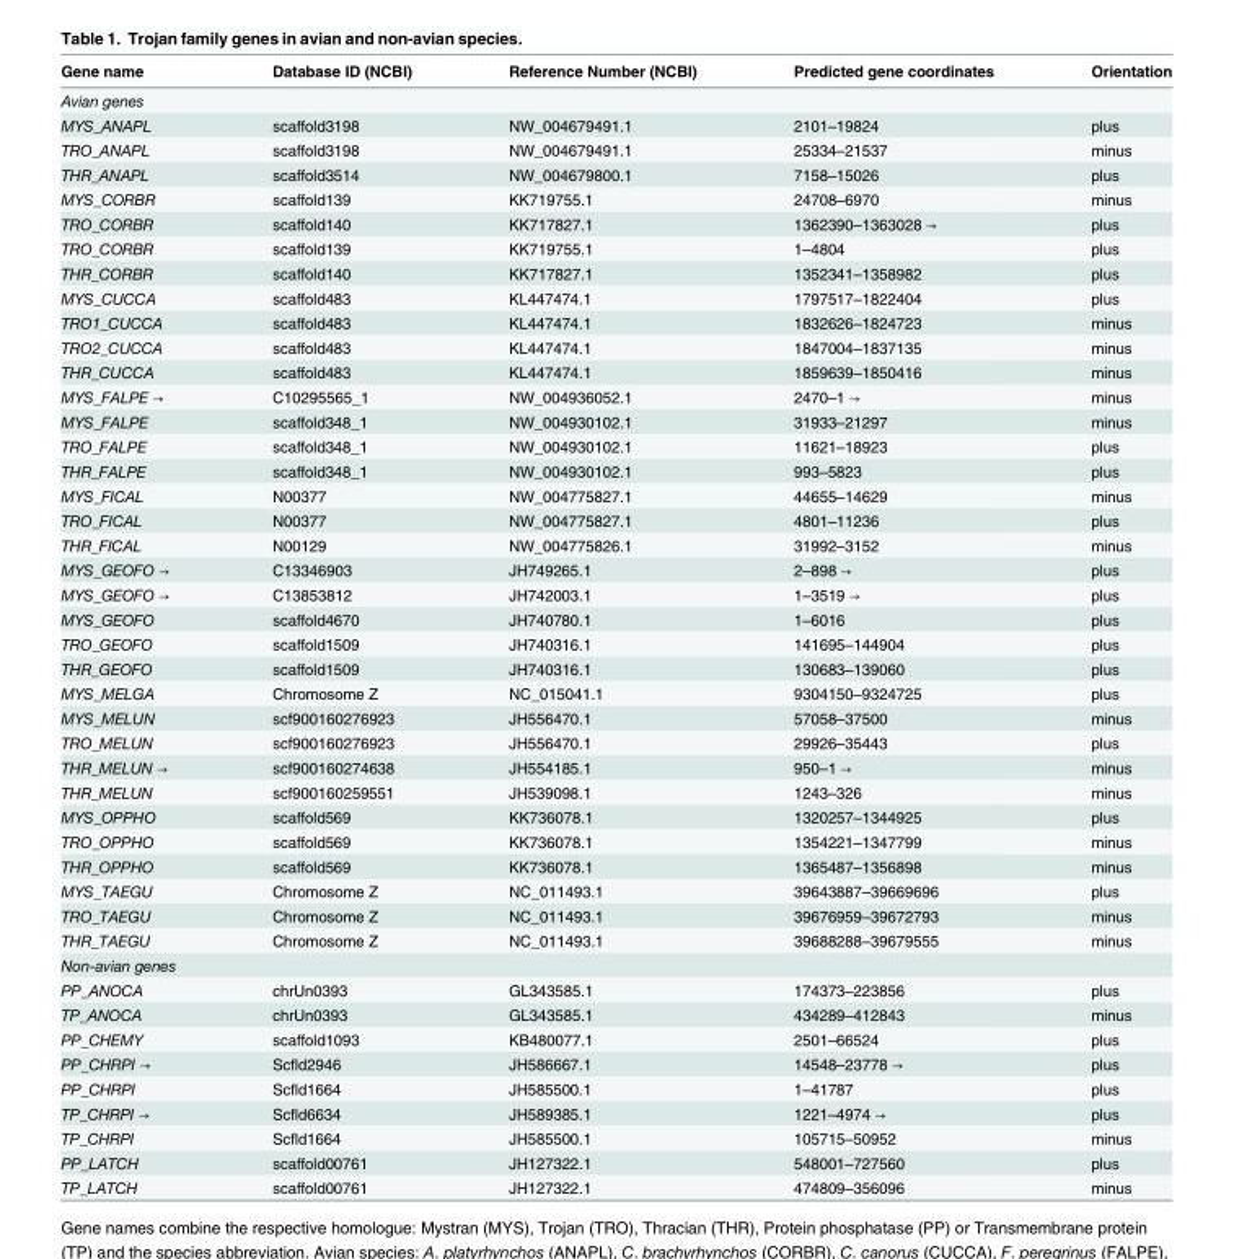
<table><thead><tr><td>Gene name</td><td>Database ID (NCBI)</td><td>Reference Number (NCBI)</td><td>Predicted gene coordinates</td><td>Orientation</td></tr></thead><tbody><tr><td colspan="5">Avian genes</td></tr><tr><td>MYS_ANAPL</td><td>scaffold3198</td><td>NW_004679491.1</td><td>2101–19824</td><td>plus</td></tr><tr><td>TRO_ANAPL</td><td>scaffold3198</td><td>NW_004679491.1</td><td>25334–21537</td><td>minus</td></tr><tr><td>THR_ANAPL</td><td>scaffold3514</td><td>NW_004679800.1</td><td>7158–15026</td><td>plus</td></tr><tr><td>MYS_CORBR</td><td>scaffold139</td><td>KK719755.1</td><td>24708–6970</td><td>minus</td></tr><tr><td>TRO_CORBR →</td><td>scaffold140</td><td>KK717827.1</td><td>1362390–1363028 →</td><td>plus</td></tr><tr><td>TRO_CORBR</td><td>scaffold139</td><td>KK719755.1</td><td>1–4804</td><td>plus</td></tr><tr><td>THR_CORBR</td><td>scaffold140</td><td>KK717827.1</td><td>1352341–1358982</td><td>plus</td></tr><tr><td>MYS_CUCCA</td><td>scaffold483</td><td>KL447474.1</td><td>1797517–1822404</td><td>plus</td></tr><tr><td>TRO1_CUCCA</td><td>scaffold483</td><td>KL447474.1</td><td>1832626–1824723</td><td>minus</td></tr><tr><td>TRO2_CUCCA</td><td>scaffold483</td><td>KL447474.1</td><td>1847004–1837135</td><td>minus</td></tr><tr><td>THR_CUCCA</td><td>scaffold483</td><td>KL447474.1</td><td>1859639–1850416</td><td>minus</td></tr><tr><td>MYS_FALPE →</td><td>C10295565_1</td><td>NW_004936052.1</td><td>2470–1 →</td><td>minus</td></tr><tr><td>MYS_FALPE</td><td>scaffold348_1</td><td>NW_004930102.1</td><td>31933–21297</td><td>minus</td></tr><tr><td>TRO_FALPE</td><td>scaffold348_1</td><td>NW_004930102.1</td><td>11621–18923</td><td>plus</td></tr><tr><td>THR_FALPE</td><td>scaffold348_1</td><td>NW_004930102.1</td><td>993–5823</td><td>plus</td></tr><tr><td>MYS_FICAL</td><td>N00377</td><td>NW_004775827.1</td><td>44655–14629</td><td>minus</td></tr><tr><td>TRO_FICAL</td><td>N00377</td><td>NW_004775827.1</td><td>4801–11236</td><td>plus</td></tr><tr><td>THR_FICAL</td><td>N00129</td><td>NW_004775826.1</td><td>31992–3152</td><td>minus</td></tr><tr><td>MYS_GEOFO →</td><td>C13346903</td><td>JH749265.1</td><td>2–898 →</td><td>plus</td></tr><tr><td>MYS_GEOFO →</td><td>C13853812</td><td>JH742003.1</td><td>1–3519 →</td><td>plus</td></tr><tr><td>MYS_GEOFO</td><td>scaffold4670</td><td>JH740780.1</td><td>1–6016</td><td>plus</td></tr><tr><td>TRO_GEOFO</td><td>scaffold1509</td><td>JH740316.1</td><td>141695–144904</td><td>plus</td></tr><tr><td>THR_GEOFO</td><td>scaffold1509</td><td>JH740316.1</td><td>130683–139060</td><td>plus</td></tr><tr><td>MYS_MELGA</td><td>Chromosome Z</td><td>NC_015041.1</td><td>9304150–9324725</td><td>plus</td></tr><tr><td>MYS_MELUN</td><td>scf900160276923</td><td>JH556470.1</td><td>57058–37500</td><td>minus</td></tr><tr><td>TRO_MELUN</td><td>scf900160276923</td><td>JH556470.1</td><td>29926–35443</td><td>plus</td></tr><tr><td>THR_MELUN →</td><td>scf900160274638</td><td>JH554185.1</td><td>950–1 →</td><td>minus</td></tr><tr><td>THR_MELUN</td><td>scf900160259551</td><td>JH539098.1</td><td>1243–326</td><td>minus</td></tr><tr><td>MYS_OPPHO</td><td>scaffold569</td><td>KK736078.1</td><td>1320257–1344925</td><td>plus</td></tr><tr><td>TRO_OPPHO</td><td>scaffold569</td><td>KK736078.1</td><td>1354221–1347799</td><td>minus</td></tr><tr><td>THR_OPPHO</td><td>scaffold569</td><td>KK736078.1</td><td>1365487–1356898</td><td>minus</td></tr><tr><td>MYS_TAEGU</td><td>Chromosome Z</td><td>NC_011493.1</td><td>39643887–39669696</td><td>plus</td></tr><tr><td>TRO_TAEGU</td><td>Chromosome Z</td><td>NC_011493.1</td><td>39676959–39672793</td><td>minus</td></tr><tr><td>THR_TAEGU</td><td>Chromosome Z</td><td>NC_011493.1</td><td>39688288–39679555</td><td>minus</td></tr><tr><td colspan="5">Non-avian genes</td></tr><tr><td>PP_ANOCA</td><td>chrUn0393</td><td>GL343585.1</td><td>174373–223856</td><td>plus</td></tr><tr><td>TP_ANOCA</td><td>chrUn0393</td><td>GL343585.1</td><td>434289–412843</td><td>minus</td></tr><tr><td>PP_CHEMY</td><td>scaffold1093</td><td>KB480077.1</td><td>2501–66524</td><td>plus</td></tr><tr><td>PP_CHRPI →</td><td>Scfld2946</td><td>JH586667.1</td><td>14548–23778 →</td><td>plus</td></tr><tr><td>PP_CHRPI</td><td>Scfld1664</td><td>JH585500.1</td><td>1–41787</td><td>plus</td></tr><tr><td>TP_CHRPI →</td><td>Scfld6634</td><td>JH589385.1</td><td>1221–4974 →</td><td>plus</td></tr><tr><td>TP_CHRPI</td><td>Scfld1664</td><td>JH585500.1</td><td>105715–50952</td><td>minus</td></tr><tr><td>PP_LATCH</td><td>scaffold00761</td><td>JH127322.1</td><td>548001–727560</td><td>plus</td></tr><tr><td>TP_LATCH</td><td>scaffold00761</td><td>JH127322.1</td><td>474809–356096</td><td>minus</td></tr></tbody></table>